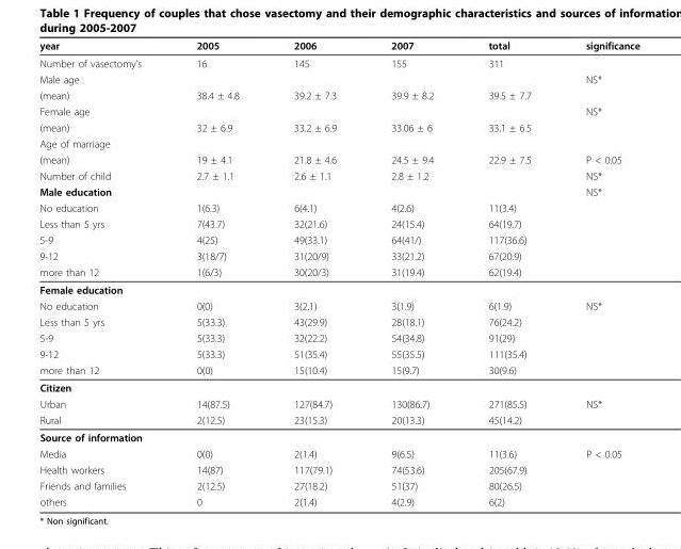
<table><thead><tr><td>year</td><td>2005</td><td>2006</td><td>2007</td><td>total</td><td>significance</td></tr></thead><tbody><tr><td>Number of vasectomy’s</td><td>16</td><td>145</td><td>155</td><td>311</td><td></td></tr><tr><td>Male age</td><td></td><td></td><td></td><td></td><td>NS*</td></tr><tr><td>(mean)</td><td>38.4 ± 4.8</td><td>39.2 ± 7.3</td><td>39.9 ± 8.2</td><td>39.5 ± 7.7</td><td></td></tr><tr><td>Female age</td><td></td><td></td><td></td><td></td><td>NS*</td></tr><tr><td>(mean)</td><td>32 ± 6.9</td><td>33.2 ± 6.9</td><td>33.06 ± 6</td><td>33.1 ± 6.5</td><td></td></tr><tr><td colspan="6">Age of marriage</td></tr><tr><td>(mean)</td><td>19 ± 4.1</td><td>21.8 ± 4.6</td><td>24.5 ± 9.4</td><td>22.9 ± 7.5</td><td>P &lt; 0.05</td></tr><tr><td>Number of child</td><td>2.7 ± 1.1</td><td>2.6 ± 1.1</td><td>2.8 ± 1.2</td><td></td><td>NS*</td></tr><tr><td>Male education</td><td></td><td></td><td></td><td></td><td>NS*</td></tr><tr><td>No education</td><td>1(6.3)</td><td>6(4.1)</td><td>4(2.6)</td><td>11(3.4)</td><td></td></tr><tr><td>Less than 5 yrs</td><td>7(43.7)</td><td>32(21.6)</td><td>24(15.4)</td><td>64(19.7)</td><td></td></tr><tr><td>5-9</td><td>4(25)</td><td>49(33.1)</td><td>64(41/)</td><td>117(36.6)</td><td></td></tr><tr><td>9-12</td><td>3(18/7)</td><td>31(20/9)</td><td>33(21.2)</td><td>67(20.9)</td><td></td></tr><tr><td>more than 12</td><td>1(6/3)</td><td>30(20/3)</td><td>31(19.4)</td><td>62(19.4)</td><td></td></tr><tr><td colspan="6">Female education</td></tr><tr><td>No education</td><td>0(0)</td><td>3(2.1)</td><td>3(1.9)</td><td>6(1.9)</td><td>NS*</td></tr><tr><td>Less than 5 yrs</td><td>5(33.3)</td><td>43(29.9)</td><td>28(18.1)</td><td>76(24.2)</td><td></td></tr><tr><td>5-9</td><td>5(33.3)</td><td>32(22.2)</td><td>54(34.8)</td><td>91(29)</td><td></td></tr><tr><td>9-12</td><td>5(33.3)</td><td>51(35.4)</td><td>55(35.5)</td><td>111(35.4)</td><td></td></tr><tr><td>more than 12</td><td>0(0)</td><td>15(10.4)</td><td>15(9.7)</td><td>30(9.6)</td><td></td></tr><tr><td colspan="6">Citizen</td></tr><tr><td>Urban</td><td>14(87.5)</td><td>127(84.7)</td><td>130(86.7)</td><td>271(85.5)</td><td>NS*</td></tr><tr><td>Rural</td><td>2(12.5)</td><td>23(15.3)</td><td>20(13.3)</td><td>45(14.2)</td><td></td></tr><tr><td colspan="6">Source of information</td></tr><tr><td>Media</td><td>0(0)</td><td>2(1.4)</td><td>9(6.5)</td><td>11(3.6)</td><td>P &lt; 0.05</td></tr><tr><td>Health workers</td><td>14(87)</td><td>117(79.1)</td><td>74(53.6)</td><td>205(67.9)</td><td></td></tr><tr><td>Friends and families</td><td>2(12.5)</td><td>27(18.2)</td><td>51(37)</td><td>80(26.5)</td><td></td></tr><tr><td>others</td><td>0</td><td>2(1.4)</td><td>4(2.9)</td><td>6(2)</td><td></td></tr></tbody></table>